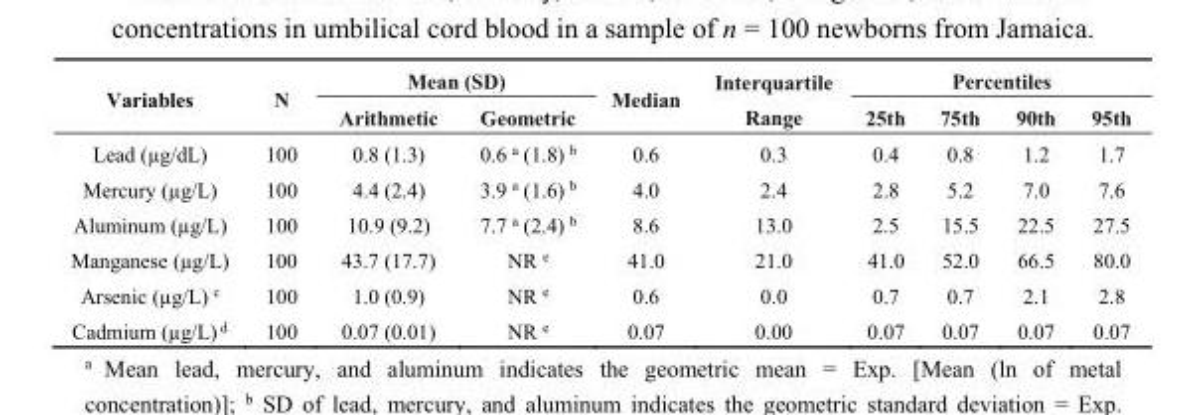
<table><thead><tr><td rowspan="2">Variables</td><td rowspan="2">N</td><td colspan="2">Mean (SD)</td><td rowspan="2">Median</td><td rowspan="2">Interquartile Range</td><td colspan="4">Percentiles</td></tr><tr><td>Arithmetic</td><td>Geometric</td><td>25th</td><td>75th</td><td>90th</td><td>95th</td></tr></thead><tbody><tr><td>Lead (µg/dL)</td><td>100</td><td>0.8 (1.3)</td><td>0.6 <sup>a</sup> (1.8) <sup>b</sup></td><td>0.6</td><td>0.3</td><td>0.4</td><td>0.8</td><td>1.2</td><td>1.7</td></tr><tr><td>Mercury (µg/L)</td><td>100</td><td>4.4 (2.4)</td><td>3.9 <sup>a</sup> (1.6) <sup>b</sup></td><td>4.0</td><td>2.4</td><td>2.8</td><td>5.2</td><td>7.0</td><td>7.6</td></tr><tr><td>Aluminum (µg/L)</td><td>100</td><td>10.9 (9.2)</td><td>7.7 <sup>a</sup> (2.4) <sup>b</sup></td><td>8.6</td><td>13.0</td><td>2.5</td><td>15.5</td><td>22.5</td><td>27.5</td></tr><tr><td>Manganese (µg/L)</td><td>100</td><td>43.7 (17.7)</td><td>NR <sup>e</sup></td><td>41.0</td><td>21.0</td><td>41.0</td><td>52.0</td><td>66.5</td><td>80.0</td></tr><tr><td>Arsenic (µg/L) <sup>c</sup></td><td>100</td><td>1.0 (0.9)</td><td>NR <sup>e</sup></td><td>0.6</td><td>0.0</td><td>0.7</td><td>0.7</td><td>2.1</td><td>2.8</td></tr><tr><td>Cadmium (µg/L) <sup>d</sup></td><td>100</td><td>0.07 (0.01)</td><td>NR <sup>e</sup></td><td>0.07</td><td>0.00</td><td>0.07</td><td>0.07</td><td>0.07</td><td>0.07</td></tr></tbody></table>